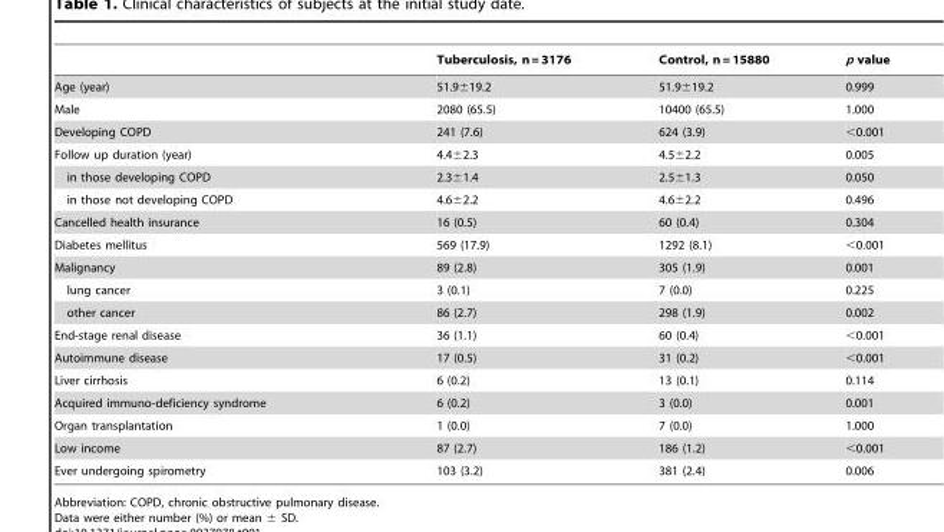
<table><thead><tr><td></td><td>Tuberculosis, n = 3176</td><td>Control, n = 15880</td><td>p value</td></tr></thead><tbody><tr><td>Age (year)</td><td>51.9±19.2</td><td>51.9±19.2</td><td>0.999</td></tr><tr><td>Male</td><td>2080 (65.5)</td><td>10400 (65.5)</td><td>1.000</td></tr><tr><td>Developing COPD</td><td>241 (7.6)</td><td>624 (3.9)</td><td>&lt;0.001</td></tr><tr><td>Follow up duration (year)</td><td>4.4±2.3</td><td>4.5±2.2</td><td>0.005</td></tr><tr><td>in those developing COPD</td><td>2.3±1.4</td><td>2.5±1.3</td><td>0.050</td></tr><tr><td>in those not developing COPD</td><td>4.6±2.2</td><td>4.6±2.2</td><td>0.496</td></tr><tr><td>Cancelled health insurance</td><td>16 (0.5)</td><td>60 (0.4)</td><td>0.304</td></tr><tr><td>Diabetes mellitus</td><td>569 (17.9)</td><td>1292 (8.1)</td><td>&lt;0.001</td></tr><tr><td>Malignancy</td><td>89 (2.8)</td><td>305 (1.9)</td><td>0.001</td></tr><tr><td>lung cancer</td><td>3 (0.1)</td><td>7 (0.0)</td><td>0.225</td></tr><tr><td>other cancer</td><td>86 (2.7)</td><td>298 (1.9)</td><td>0.002</td></tr><tr><td>End-stage renal disease</td><td>36 (1.1)</td><td>60 (0.4)</td><td>&lt;0.001</td></tr><tr><td>Autoimmune disease</td><td>17 (0.5)</td><td>31 (0.2)</td><td>&lt;0.001</td></tr><tr><td>Liver cirrhosis</td><td>6 (0.2)</td><td>13 (0.1)</td><td>0.114</td></tr><tr><td>Acquired immuno-deficiency syndrome</td><td>6 (0.2)</td><td>3 (0.0)</td><td>0.001</td></tr><tr><td>Organ transplantation</td><td>1 (0.0)</td><td>7 (0.0)</td><td>1.000</td></tr><tr><td>Low income</td><td>87 (2.7)</td><td>186 (1.2)</td><td>&lt;0.001</td></tr><tr><td>Ever undergoing spirometry</td><td>103 (3.2)</td><td>381 (2.4)</td><td>0.006</td></tr></tbody></table>